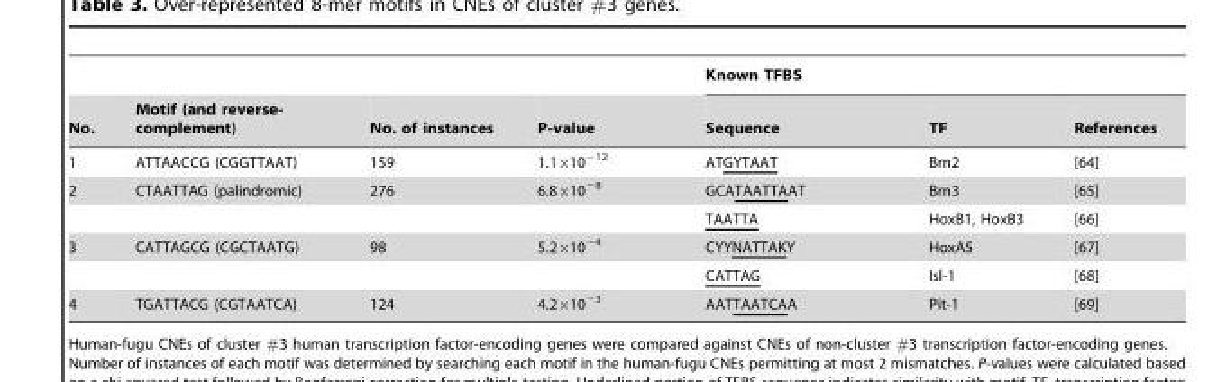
<table><thead><tr><td rowspan="2">No.</td><td rowspan="2">Motif (and reverse- complement)</td><td rowspan="2">No. of instances</td><td rowspan="2">P-value</td><td colspan="3">Known TFBS</td></tr><tr><td>Sequence</td><td>TF</td><td>References</td></tr></thead><tbody><tr><td>1</td><td>ATTAACCG (CGGTTAAT)</td><td>159</td><td>1.1×10<sup>−12</sup></td><td>ATGYTAAT</td><td>Brn2</td><td>[64]</td></tr><tr><td rowspan="2">2</td><td>CTAATTAG (palindromic)</td><td>276</td><td>6.8×10<sup>−8</sup></td><td>GCATAATTAAT</td><td>Brn3</td><td>[65]</td></tr><tr><td></td><td></td><td></td><td>TAATTA</td><td>HoxB1, HoxB3</td><td>[66]</td></tr><tr><td rowspan="2">3</td><td>CATTAGCG (CGCTAATG)</td><td>98</td><td>5.2×10<sup>−4</sup></td><td>CYYNATTAKY</td><td>HoxA5</td><td>[67]</td></tr><tr><td></td><td></td><td></td><td>CATTAG</td><td>Isl-1</td><td>[68]</td></tr><tr><td>4</td><td>TGATTACG (CGTAATCA)</td><td>124</td><td>4.2×10<sup>−3</sup></td><td>AATTAATCAA</td><td>Pit-1</td><td>[69]</td></tr></tbody></table>